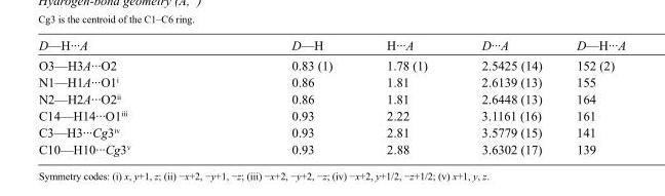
<table><tbody><tr><td>D—H···A</td><td>D—H</td><td>H···A</td><td>D···A</td><td>D—H···A</td></tr><tr><td>O3—H3A···O2</td><td>0.83 (1)</td><td>1.78 (1)</td><td>2.5425 (14)</td><td>152 (2)</td></tr><tr><td>N1—H1A···O1<sup>i</sup></td><td>0.86</td><td>1.81</td><td>2.6139 (13)</td><td>155</td></tr><tr><td>N2—H2A···O2<sup>ii</sup></td><td>0.86</td><td>1.81</td><td>2.6448 (13)</td><td>164</td></tr><tr><td>C14—H14···O1<sup>iii</sup></td><td>0.93</td><td>2.22</td><td>3.1161 (16)</td><td>161</td></tr><tr><td>C3—H3···Cg3<sup>iv</sup></td><td>0.93</td><td>2.81</td><td>3.5779 (15)</td><td>141</td></tr><tr><td>C10—H10···Cg3<sup>v</sup></td><td>0.93</td><td>2.88</td><td>3.6302 (17)</td><td>139</td></tr></tbody></table>